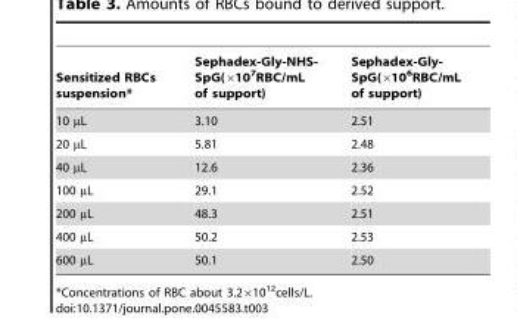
<table><thead><tr><td>Sensitized RBCs suspension*</td><td>Sephadex-Gly-NHS- SpG(×10<sup>7</sup>RBC/mL of support)</td><td>Sephadex-Gly- SpG(×10<sup>6</sup>RBC/mL of support)</td></tr></thead><tbody><tr><td>10 µL</td><td>3.10</td><td>2.51</td></tr><tr><td>20 µL</td><td>5.81</td><td>2.48</td></tr><tr><td>40 µL</td><td>12.6</td><td>2.36</td></tr><tr><td>100 µL</td><td>29.1</td><td>2.52</td></tr><tr><td>200 µL</td><td>48.3</td><td>2.51</td></tr><tr><td>400 µL</td><td>50.2</td><td>2.53</td></tr><tr><td>600 µL</td><td>50.1</td><td>2.50</td></tr></tbody></table>